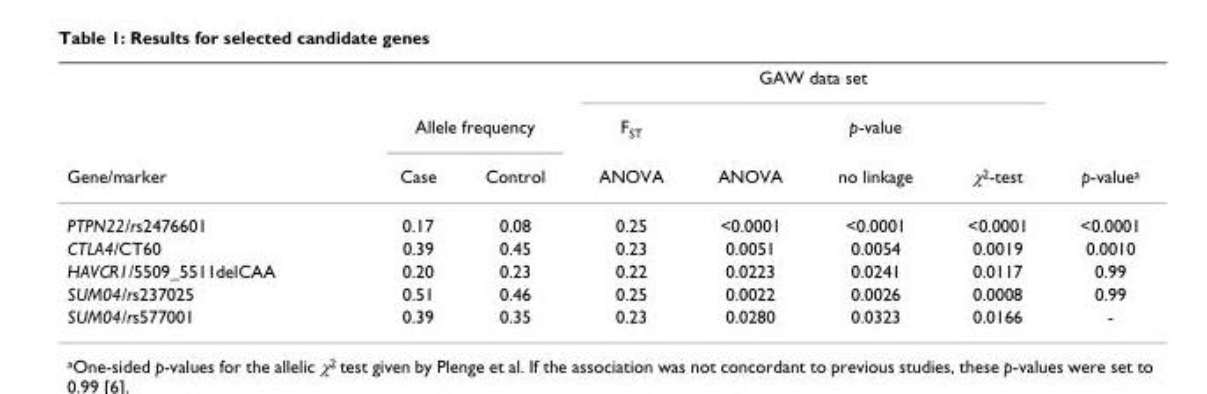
<table><thead><tr><td rowspan="3">Gene/marker</td><td></td><td></td><td colspan="4">GAW data set</td><td rowspan="3">p-value<sup>a</sup></td></tr><tr><td colspan="2">Allele frequency</td><td rowspan="2">F<sub>ST</sub> ANOVA</td><td rowspan="2">ANOVA</td><td rowspan="2">p-value no linkage</td><td rowspan="2">χ<sup>2</sup>-test</td></tr><tr><td>Case</td><td>Control</td></tr></thead><tbody><tr><td>PTPN22/rs2476601</td><td>0.17</td><td>0.08</td><td>0.25</td><td>&lt;0.0001</td><td>&lt;0.0001</td><td>&lt;0.0001</td><td>&lt;0.0001</td></tr><tr><td>CTLA4/CT60</td><td>0.39</td><td>0.45</td><td>0.23</td><td>0.0051</td><td>0.0054</td><td>0.0019</td><td>0.0010</td></tr><tr><td>HAVCR1/5509_5511delCAA</td><td>0.20</td><td>0.23</td><td>0.22</td><td>0.0223</td><td>0.0241</td><td>0.0117</td><td>0.99</td></tr><tr><td>SUM04/rs237025</td><td>0.51</td><td>0.46</td><td>0.25</td><td>0.0022</td><td>0.0026</td><td>0.0008</td><td>0.99</td></tr><tr><td>SUM04/rs577001</td><td>0.39</td><td>0.35</td><td>0.23</td><td>0.0280</td><td>0.0323</td><td>0.0166</td><td>-</td></tr></tbody></table>